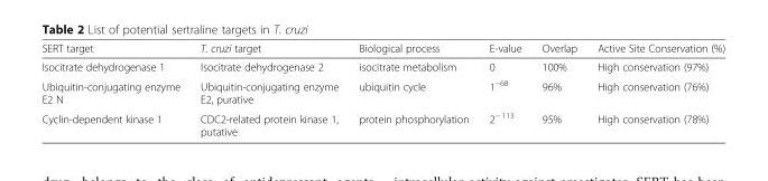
<table><thead><tr><td>SERT target</td><td>T. cruzi target</td><td>Biological process</td><td>E-value</td><td>Overlap</td><td>Active Site Conservation (%)</td></tr></thead><tbody><tr><td>Isocitrate dehydrogenase 1</td><td>Isocitrate dehydrogenase 2</td><td>isocitrate metabolism</td><td>0</td><td>100%</td><td>High conservation (97%)</td></tr><tr><td>Ubiquitin-conjugating enzyme E2 N</td><td>Ubiquitin-conjugating enzyme E2, purative</td><td>ubiquitin cycle</td><td>1<sup>−68</sup></td><td>96%</td><td>High conservation (76%)</td></tr><tr><td>Cyclin-dependent kinase 1</td><td>CDC2-related protein kinase 1, putative</td><td>protein phosphorylation</td><td>2<sup>− 113</sup></td><td>95%</td><td>High conservation (78%)</td></tr></tbody></table>